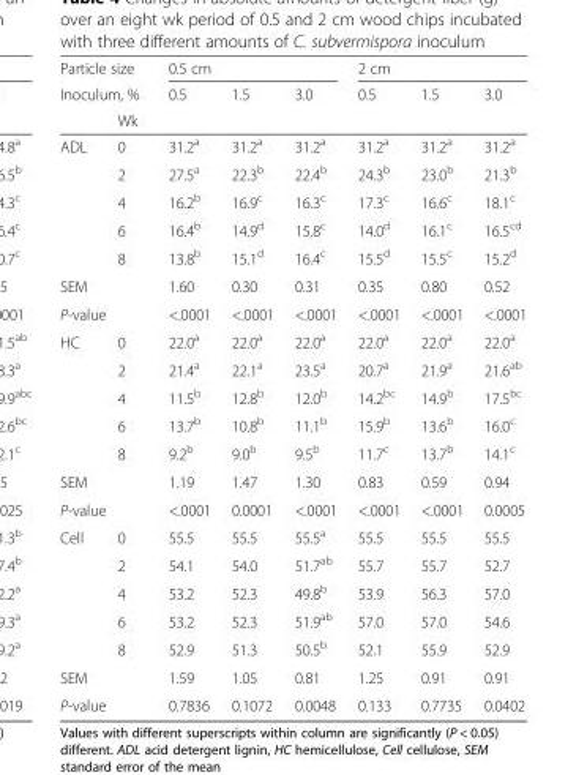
<table><thead><tr><td rowspan="2" colspan="2">Particle size Inoculum, %</td><td colspan="3">0.5 cm</td><td colspan="3">2 cm</td></tr><tr><td rowspan="2">0.5</td><td rowspan="2">1.5</td><td rowspan="2">3.0</td><td rowspan="2">0.5</td><td rowspan="2">1.5</td><td rowspan="2">3.0</td></tr><tr><td></td><td>Wk</td></tr></thead><tbody><tr><td rowspan="5">ADL</td><td>0</td><td>31.2<sup>a</sup></td><td>31.2<sup>a</sup></td><td>31.2<sup>a</sup></td><td>31.2<sup>a</sup></td><td>31.2<sup>a</sup></td><td>31.2<sup>a</sup></td></tr><tr><td>2</td><td>27.5<sup>a</sup></td><td>22.3<sup>b</sup></td><td>22.4<sup>b</sup></td><td>24.3<sup>b</sup></td><td>23.0<sup>b</sup></td><td>21.3<sup>b</sup></td></tr><tr><td>4</td><td>16.2<sup>b</sup></td><td>16.9<sup>c</sup></td><td>16.3<sup>c</sup></td><td>17.3<sup>c</sup></td><td>16.6<sup>c</sup></td><td>18.1<sup>c</sup></td></tr><tr><td>6</td><td>16.4<sup>b</sup></td><td>14.9<sup>d</sup></td><td>15.8<sup>c</sup></td><td>14.0<sup>d</sup></td><td>16.1<sup>c</sup></td><td>16.5<sup>cd</sup></td></tr><tr><td>8</td><td>13.8<sup>b</sup></td><td>15.1<sup>d</sup></td><td>16.4<sup>c</sup></td><td>15.5<sup>d</sup></td><td>15.5<sup>c</sup></td><td>15.2<sup>d</sup></td></tr><tr><td colspan="2">SEM</td><td>1.60</td><td>0.30</td><td>0.31</td><td>0.35</td><td>0.80</td><td>0.52</td></tr><tr><td colspan="2">P-value</td><td>&lt;.0001</td><td>&lt;.0001</td><td>&lt;.0001</td><td>&lt;.0001</td><td>&lt;.0001</td><td>&lt;.0001</td></tr><tr><td rowspan="5">HC</td><td>0</td><td>22.0<sup>a</sup></td><td>22.0<sup>a</sup></td><td>22.0<sup>a</sup></td><td>22.0<sup>a</sup></td><td>22.0<sup>a</sup></td><td>22.0<sup>a</sup></td></tr><tr><td>2</td><td>21.4<sup>a</sup></td><td>22.1<sup>a</sup></td><td>23.5<sup>a</sup></td><td>20.7<sup>a</sup></td><td>21.9<sup>a</sup></td><td>21.6<sup>ab</sup></td></tr><tr><td>4</td><td>11.5<sup>b</sup></td><td>12.8<sup>b</sup></td><td>12.0<sup>b</sup></td><td>14.2<sup>bc</sup></td><td>14.9<sup>b</sup></td><td>17.5<sup>bc</sup></td></tr><tr><td>6</td><td>13.7<sup>b</sup></td><td>10.8<sup>b</sup></td><td>11.1<sup>b</sup></td><td>15.9<sup>b</sup></td><td>13.6<sup>b</sup></td><td>16.0<sup>c</sup></td></tr><tr><td>8</td><td>9.2<sup>b</sup></td><td>9.0<sup>b</sup></td><td>9.5<sup>b</sup></td><td>11.7<sup>c</sup></td><td>13.7<sup>b</sup></td><td>14.1<sup>c</sup></td></tr><tr><td colspan="2">SEM</td><td>1.19</td><td>1.47</td><td>1.30</td><td>0.83</td><td>0.59</td><td>0.94</td></tr><tr><td colspan="2">P-value</td><td>&lt;.0001</td><td>0.0001</td><td>&lt;.0001</td><td>&lt;.0001</td><td>&lt;.0001</td><td>0.0005</td></tr><tr><td rowspan="5">Cell</td><td>0</td><td>55.5</td><td>55.5</td><td>55.5<sup>a</sup></td><td>55.5</td><td>55.5</td><td>55.5</td></tr><tr><td>2</td><td>54.1</td><td>54.0</td><td>51.7<sup>ab</sup></td><td>55.7</td><td>55.7</td><td>52.7</td></tr><tr><td>4</td><td>53.2</td><td>52.3</td><td>49.8<sup>b</sup></td><td>53.9</td><td>56.3</td><td>57.0</td></tr><tr><td>6</td><td>53.2</td><td>52.3</td><td>51.9<sup>ab</sup></td><td>57.0</td><td>57.0</td><td>54.6</td></tr><tr><td>8</td><td>52.9</td><td>51.3</td><td>50.5<sup>b</sup></td><td>52.1</td><td>55.9</td><td>52.9</td></tr><tr><td colspan="2">SEM</td><td>1.59</td><td>1.05</td><td>0.81</td><td>1.25</td><td>0.91</td><td>0.91</td></tr><tr><td colspan="2">P-value</td><td>0.7836</td><td>0.1072</td><td>0.0048</td><td>0.133</td><td>0.7735</td><td>0.0402</td></tr></tbody></table>